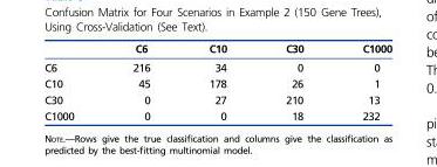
<table><thead><tr><td></td><td>C6</td><td>C10</td><td>C30</td><td>C1000</td></tr></thead><tbody><tr><td>C6</td><td>216</td><td>34</td><td>0</td><td>0</td></tr><tr><td>C10</td><td>45</td><td>178</td><td>26</td><td>1</td></tr><tr><td>C30</td><td>0</td><td>27</td><td>210</td><td>13</td></tr><tr><td>C1000</td><td>0</td><td>0</td><td>18</td><td>232</td></tr></tbody></table>